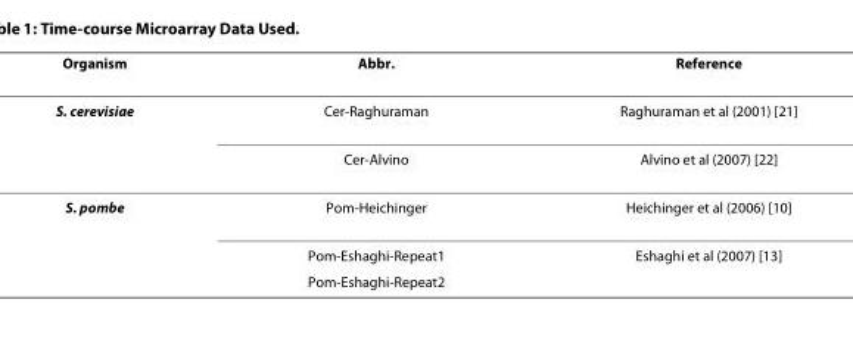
<table><thead><tr><td>Organism</td><td>Abbr.</td><td>Reference</td></tr></thead><tbody><tr><td rowspan="2">S. cerevisiae</td><td>Cer-Raghuraman</td><td>Raghuraman et al (2001) [21]</td></tr><tr><td>Cer-Alvino</td><td>Alvino et al (2007) [22]</td></tr><tr><td rowspan="3">S. pombe</td><td>Pom-Heichinger</td><td>Heichinger et al (2006) [10]</td></tr><tr><td>Pom-Eshaghi-Repeat1</td><td>Eshaghi et al (2007) [13]</td></tr><tr><td>Pom-Eshaghi-Repeat2</td><td></td></tr></tbody></table>